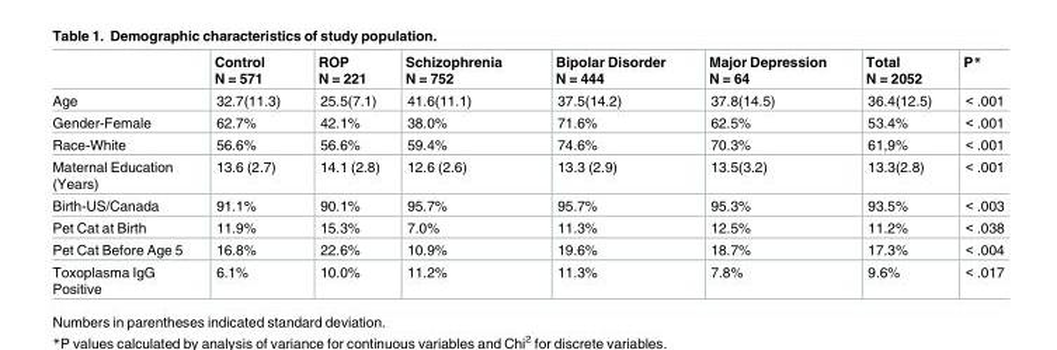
<table><thead><tr><td></td><td>Control N = 571</td><td>ROP N = 221</td><td>Schizophrenia N = 752</td><td>Bipolar Disorder N = 444</td><td>Major Depression N = 64</td><td>Total N = 2052</td><td>P*</td></tr></thead><tbody><tr><td>Age</td><td>32.7(11.3)</td><td>25.5(7.1)</td><td>41.6(11.1)</td><td>37.5(14.2)</td><td>37.8(14.5)</td><td>36.4(12.5)</td><td>&lt; .001</td></tr><tr><td>Gender-Female</td><td>62.7%</td><td>42.1%</td><td>38.0%</td><td>71.6%</td><td>62.5%</td><td>53.4%</td><td>&lt; .001</td></tr><tr><td>Race-White</td><td>56.6%</td><td>56.6%</td><td>59.4%</td><td>74.6%</td><td>70.3%</td><td>61,9%</td><td>&lt; .001</td></tr><tr><td>Maternal Education (Years)</td><td>13.6 (2.7)</td><td>14.1 (2.8)</td><td>12.6 (2.6)</td><td>13.3 (2.9)</td><td>13.5(3.2)</td><td>13.3(2.8)</td><td>&lt; .001</td></tr><tr><td>Birth-US/Canada</td><td>91.1%</td><td>90.1%</td><td>95.7%</td><td>95.7%</td><td>95.3%</td><td>93.5%</td><td>&lt; .003</td></tr><tr><td>Pet Cat at Birth</td><td>11.9%</td><td>15.3%</td><td>7.0%</td><td>11.3%</td><td>12.5%</td><td>11.2%</td><td>&lt; .038</td></tr><tr><td>Pet Cat Before Age 5</td><td>16.8%</td><td>22.6%</td><td>10.9%</td><td>19.6%</td><td>18.7%</td><td>17.3%</td><td>&lt; .004</td></tr><tr><td>Toxoplasma IgG Positive</td><td>6.1%</td><td>10.0%</td><td>11.2%</td><td>11.3%</td><td>7.8%</td><td>9.6%</td><td>&lt; .017</td></tr></tbody></table>